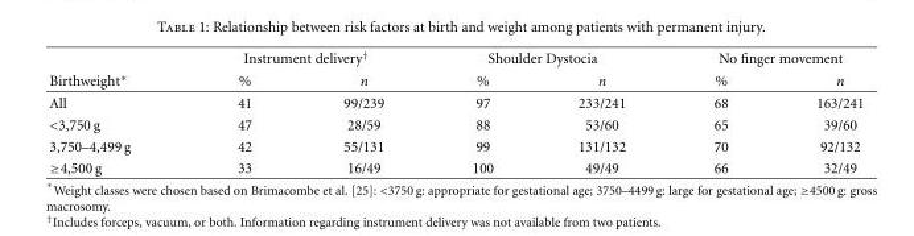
<table><thead><tr><td rowspan="2">Birthweight∗</td><td colspan="2">Instrument delivery<sup>†</sup></td><td colspan="2">Shoulder Dystocia</td><td colspan="2">No finger movement</td></tr><tr><td>%</td><td>n</td><td>%</td><td>n</td><td>%</td><td>n</td></tr></thead><tbody><tr><td>All</td><td>41</td><td>99/239</td><td>97</td><td>233/241</td><td>68</td><td>163/241</td></tr><tr><td>&lt;3,750 g</td><td>47</td><td>28/59</td><td>88</td><td>53/60</td><td>65</td><td>39/60</td></tr><tr><td>3,750–4,499 g</td><td>42</td><td>55/131</td><td>99</td><td>131/132</td><td>70</td><td>92/132</td></tr><tr><td>≥4,500 g</td><td>33</td><td>16/49</td><td>100</td><td>49/49</td><td>66</td><td>32/49</td></tr></tbody></table>